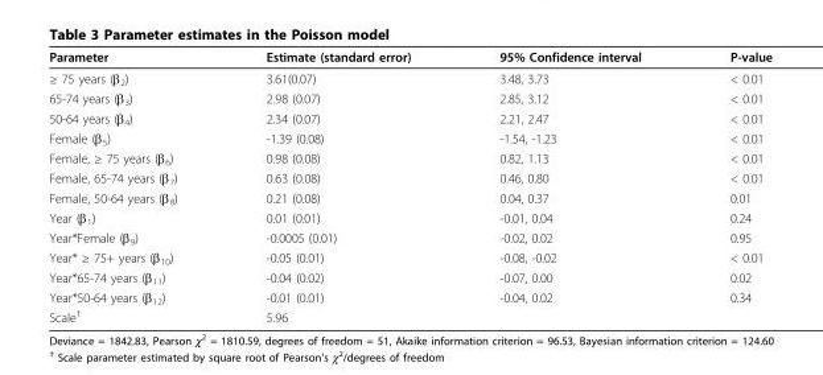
<table><thead><tr><td>Parameter</td><td>Estimate (standard error)</td><td>95% Confidence interval</td><td>P-value</td></tr></thead><tbody><tr><td>≥ 75 years (β<sub>2</sub>)</td><td>3.61(0.07)</td><td>3.48, 3.73</td><td>&lt; 0.01</td></tr><tr><td>65-74 years (β<sub>3</sub>)</td><td>2.98 (0.07)</td><td>2.85, 3.12</td><td>&lt; 0.01</td></tr><tr><td>50-64 years (β<sub>4</sub>)</td><td>2.34 (0.07)</td><td>2.21, 2.47</td><td>&lt; 0.01</td></tr><tr><td>Female (β<sub>5</sub>)</td><td>-1.39 (0.08)</td><td>-1.54, -1.23</td><td>&lt; 0.01</td></tr><tr><td>Female, ≥ 75 years (β<sub>6</sub>)</td><td>0.98 (0.08)</td><td>0.82, 1.13</td><td>&lt; 0.01</td></tr><tr><td>Female, 65-74 years (β<sub>7</sub>)</td><td>0.63 (0.08)</td><td>0.46, 0.80</td><td>&lt; 0.01</td></tr><tr><td>Female, 50-64 years (β<sub>8</sub>)</td><td>0.21 (0.08)</td><td>0.04, 0.37</td><td>0.01</td></tr><tr><td>Year (β<sub>1</sub>)</td><td>0.01 (0.01)</td><td>-0.01, 0.04</td><td>0.24</td></tr><tr><td>Year*Female (β<sub>9</sub>)</td><td>-0.0005 (0.01)</td><td>-0.02, 0.02</td><td>0.95</td></tr><tr><td>Year* ≥ 75+ years (β<sub>10</sub>)</td><td>-0.05 (0.01)</td><td>-0.08, -0.02</td><td>&lt; 0.01</td></tr><tr><td>Year*65-74 years (β<sub>11</sub>)</td><td>-0.04 (0.02)</td><td>-0.07, 0.00</td><td>0.02</td></tr><tr><td>Year*50-64 years (β<sub>12</sub>)</td><td>-0.01 (0.01)</td><td>-0.04, 0.02</td><td>0.34</td></tr><tr><td>Scale<sup>†</sup></td><td>5.96</td><td></td><td></td></tr></tbody></table>